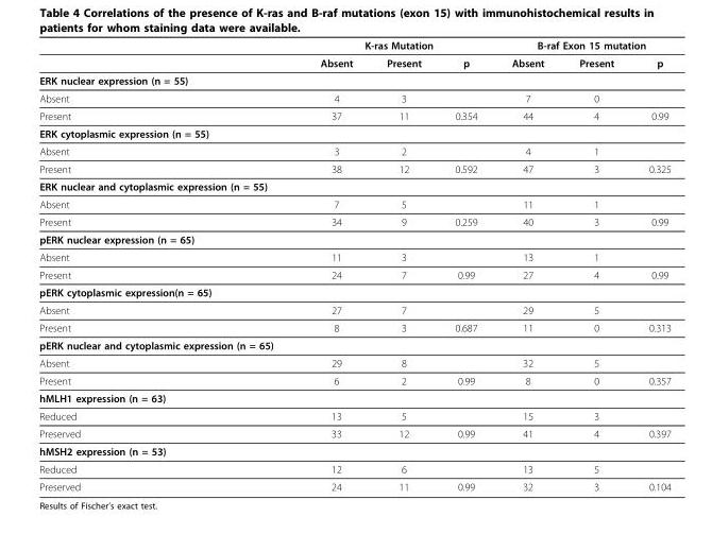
<table><thead><tr><td rowspan="2"></td><td colspan="3">K-ras Mutation</td><td colspan="3">B-raf Exon 15 mutation</td></tr><tr><td>Absent</td><td>Present</td><td>p</td><td>Absent</td><td>Present</td><td>p</td></tr></thead><tbody><tr><td colspan="7">ERK nuclear expression (n = 55)</td></tr><tr><td>Absent</td><td>4</td><td>3</td><td></td><td>7</td><td>0</td><td></td></tr><tr><td>Present</td><td>37</td><td>11</td><td>0.354</td><td>44</td><td>4</td><td>0.99</td></tr><tr><td colspan="7">ERK cytoplasmic expression (n = 55)</td></tr><tr><td>Absent</td><td>3</td><td>2</td><td></td><td>4</td><td>1</td><td></td></tr><tr><td>Present</td><td>38</td><td>12</td><td>0.592</td><td>47</td><td>3</td><td>0.325</td></tr><tr><td colspan="7">ERK nuclear and cytoplasmic expression (n = 55)</td></tr><tr><td>Absent</td><td>7</td><td>5</td><td></td><td>11</td><td>1</td><td></td></tr><tr><td>Present</td><td>34</td><td>9</td><td>0.259</td><td>40</td><td>3</td><td>0.99</td></tr><tr><td colspan="7">pERK nuclear expression (n = 65)</td></tr><tr><td>Absent</td><td>11</td><td>3</td><td></td><td>13</td><td>1</td><td></td></tr><tr><td>Present</td><td>24</td><td>7</td><td>0.99</td><td>27</td><td>4</td><td>0.99</td></tr><tr><td colspan="7">pERK cytoplasmic expression(n = 65)</td></tr><tr><td>Absent</td><td>27</td><td>7</td><td></td><td>29</td><td>5</td><td></td></tr><tr><td>Present</td><td>8</td><td>3</td><td>0.687</td><td>11</td><td>0</td><td>0.313</td></tr><tr><td colspan="7">pERK nuclear and cytoplasmic expression (n = 65)</td></tr><tr><td>Absent</td><td>29</td><td>8</td><td></td><td>32</td><td>5</td><td></td></tr><tr><td>Present</td><td>6</td><td>2</td><td>0.99</td><td>8</td><td>0</td><td>0.357</td></tr><tr><td colspan="7">hMLH1 expression (n = 63)</td></tr><tr><td>Reduced</td><td>13</td><td>5</td><td></td><td>15</td><td>3</td><td></td></tr><tr><td>Preserved</td><td>33</td><td>12</td><td>0.99</td><td>41</td><td>4</td><td>0.397</td></tr><tr><td colspan="7">hMSH2 expression (n = 53)</td></tr><tr><td>Reduced</td><td>12</td><td>6</td><td></td><td>13</td><td>5</td><td></td></tr><tr><td>Preserved</td><td>24</td><td>11</td><td>0.99</td><td>32</td><td>3</td><td>0.104</td></tr></tbody></table>